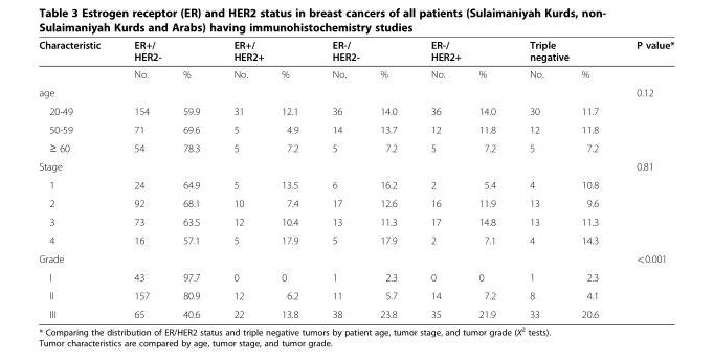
<table><thead><tr><td rowspan="2">Characteristic</td><td colspan="2">ER+/ HER2-</td><td colspan="2">ER+/ HER2+</td><td colspan="2">ER-/ HER2-</td><td colspan="2">ER-/ HER2+</td><td colspan="2">Triple negative</td><td rowspan="2">P value*</td></tr><tr><td>No.</td><td>%</td><td>No.</td><td>%</td><td>No.</td><td>%</td><td>No.</td><td>%</td><td>No.</td><td>%</td></tr></thead><tbody><tr><td>age</td><td></td><td></td><td></td><td></td><td></td><td></td><td></td><td></td><td></td><td></td><td>0.12</td></tr><tr><td>20-49</td><td>154</td><td>59.9</td><td>31</td><td>12.1</td><td>36</td><td>14.0</td><td>36</td><td>14.0</td><td>30</td><td>11.7</td><td></td></tr><tr><td>50-59</td><td>71</td><td>69.6</td><td>5</td><td>4.9</td><td>14</td><td>13.7</td><td>12</td><td>11.8</td><td>12</td><td>11.8</td><td></td></tr><tr><td>≥ 60</td><td>54</td><td>78.3</td><td>5</td><td>7.2</td><td>5</td><td>7.2</td><td>5</td><td>7.2</td><td>5</td><td>7.2</td><td></td></tr><tr><td>Stage</td><td></td><td></td><td></td><td></td><td></td><td></td><td></td><td></td><td></td><td></td><td>0.81</td></tr><tr><td>1</td><td>24</td><td>64.9</td><td>5</td><td>13.5</td><td>6</td><td>16.2</td><td>2</td><td>5.4</td><td>4</td><td>10.8</td><td></td></tr><tr><td>2</td><td>92</td><td>68.1</td><td>10</td><td>7.4</td><td>17</td><td>12.6</td><td>16</td><td>11.9</td><td>13</td><td>9.6</td><td></td></tr><tr><td>3</td><td>73</td><td>63.5</td><td>12</td><td>10.4</td><td>13</td><td>11.3</td><td>17</td><td>14.8</td><td>13</td><td>11.3</td><td></td></tr><tr><td>4</td><td>16</td><td>57.1</td><td>5</td><td>17.9</td><td>5</td><td>17.9</td><td>2</td><td>7.1</td><td>4</td><td>14.3</td><td></td></tr><tr><td>Grade</td><td></td><td></td><td></td><td></td><td></td><td></td><td></td><td></td><td></td><td></td><td>&lt;0.001</td></tr><tr><td>I</td><td>43</td><td>97.7</td><td>0</td><td>0</td><td>1</td><td>2.3</td><td>0</td><td>0</td><td>1</td><td>2.3</td><td></td></tr><tr><td>II</td><td>157</td><td>80.9</td><td>12</td><td>6.2</td><td>11</td><td>5.7</td><td>14</td><td>7.2</td><td>8</td><td>4.1</td><td></td></tr><tr><td>III</td><td>65</td><td>40.6</td><td>22</td><td>13.8</td><td>38</td><td>23.8</td><td>35</td><td>21.9</td><td>33</td><td>20.6</td><td></td></tr></tbody></table>